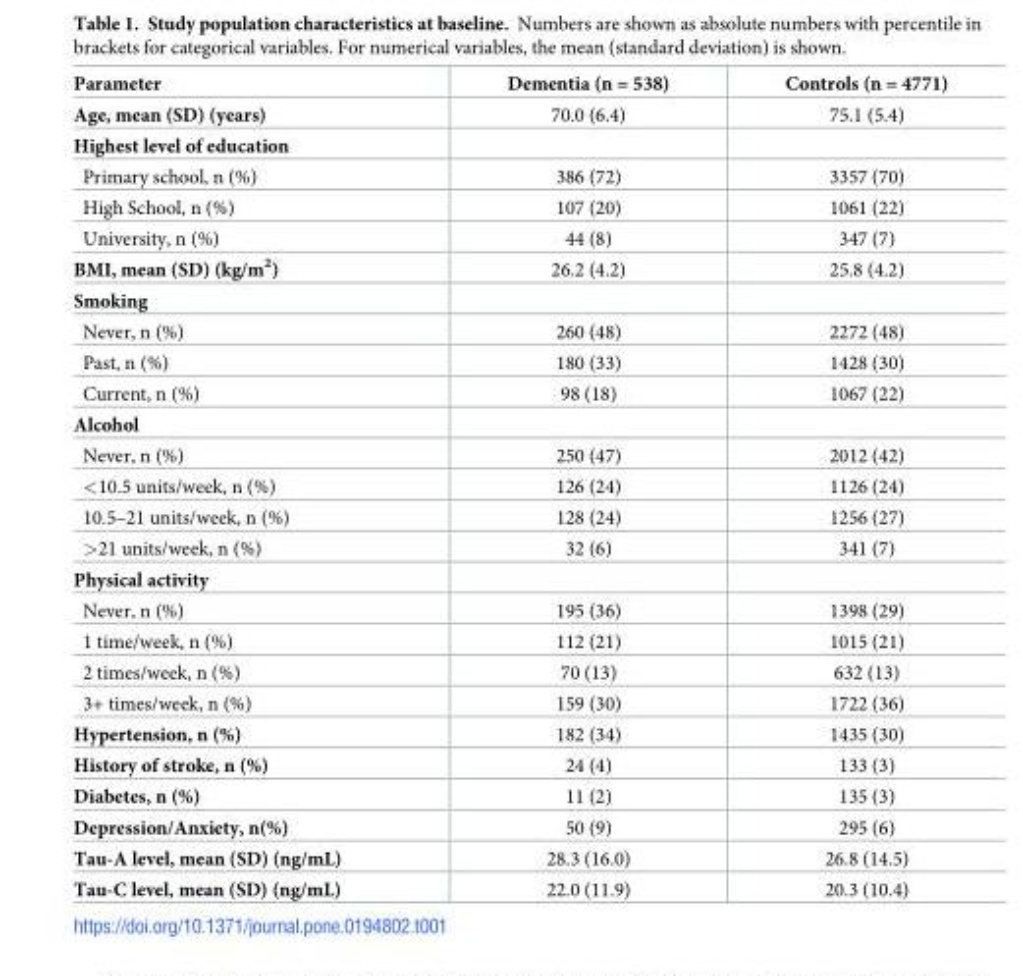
<table><thead><tr><td>Parameter</td><td>Dementia (n = 538)</td><td>Controls (n = 4771)</td></tr></thead><tbody><tr><td>Age, mean (SD) (years)</td><td>70.0 (6.4)</td><td>75.1 (5.4)</td></tr><tr><td colspan="3">Highest level of education</td></tr><tr><td>Primary school, n (%)</td><td>386 (72)</td><td>3357 (70)</td></tr><tr><td>High School, n (%)</td><td>107 (20)</td><td>1061 (22)</td></tr><tr><td>University, n (%)</td><td>44 (8)</td><td>347 (7)</td></tr><tr><td>BMI, mean (SD) (kg/m<sup>2</sup>)</td><td>26.2 (4.2)</td><td>25.8 (4.2)</td></tr><tr><td colspan="3">Smoking</td></tr><tr><td>Never, n (%)</td><td>260 (48)</td><td>2272 (48)</td></tr><tr><td>Past, n (%)</td><td>180 (33)</td><td>1428 (30)</td></tr><tr><td>Current, n (%)</td><td>98 (18)</td><td>1067 (22)</td></tr><tr><td colspan="3">Alcohol</td></tr><tr><td>Never, n (%)</td><td>250 (47)</td><td>2012 (42)</td></tr><tr><td>&lt;10.5 units/week, n (%)</td><td>126 (24)</td><td>1126 (24)</td></tr><tr><td>10.5–21 units/week, n (%)</td><td>128 (24)</td><td>1256 (27)</td></tr><tr><td>&gt;21 units/week, n (%)</td><td>32 (6)</td><td>341 (7)</td></tr><tr><td colspan="3">Physical activity</td></tr><tr><td>Never, n (%)</td><td>195 (36)</td><td>1398 (29)</td></tr><tr><td>1 time/week, n (%)</td><td>112 (21)</td><td>1015 (21)</td></tr><tr><td>2 times/week, n (%)</td><td>70 (13)</td><td>632 (13)</td></tr><tr><td>3+ times/week, n (%)</td><td>159 (30)</td><td>1722 (36)</td></tr><tr><td>Hypertension, n (%)</td><td>182 (34)</td><td>1435 (30)</td></tr><tr><td>History of stroke, n (%)</td><td>24 (4)</td><td>133 (3)</td></tr><tr><td>Diabetes, n (%)</td><td>11 (2)</td><td>135 (3)</td></tr><tr><td>Depression/Anxiety, n(%)</td><td>50 (9)</td><td>295 (6)</td></tr><tr><td>Tau-A level, mean (SD) (ng/mL)</td><td>28.3 (16.0)</td><td>26.8 (14.5)</td></tr><tr><td>Tau-C level, mean (SD) (ng/mL)</td><td>22.0 (11.9)</td><td>20.3 (10.4)</td></tr></tbody></table>